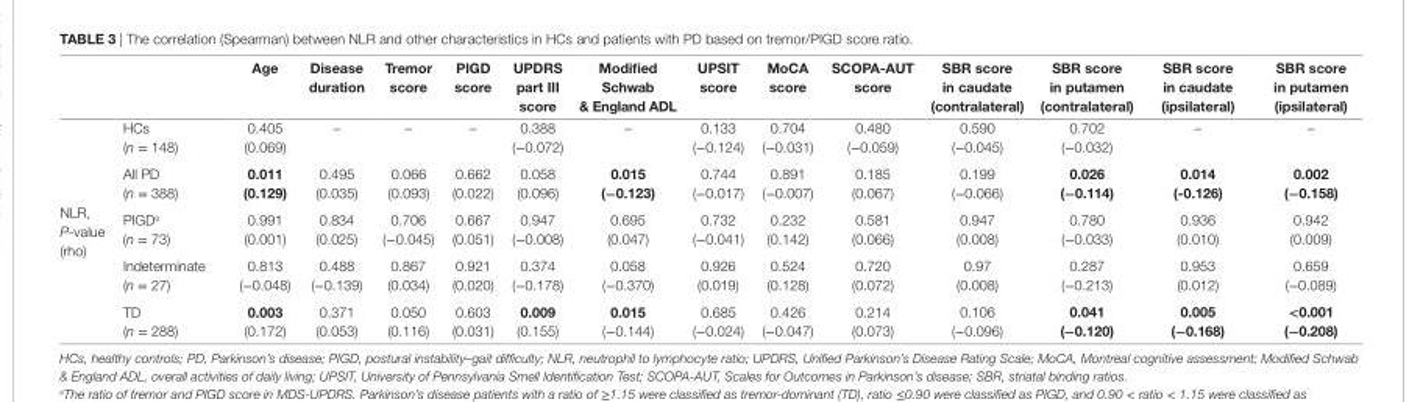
<table><thead><tr><td></td><td></td><td>age</td><td>Disease duration</td><td>Tremor score</td><td>PigD score</td><td>UPDrs part iii score</td><td>Modified schwab &amp; england aDl</td><td>UPsiT score</td><td>Moca score</td><td>scOPa-aUT score</td><td>sBr score in caudate (contralateral)</td><td>sBr score in putamen (contralateral)</td><td>sBr score in caudate (ipsilateral)</td><td>sBr score in putamen (ipsilateral)</td></tr></thead><tbody><tr><td rowspan="5">NLR, P-value (rho)</td><td>HCs (n = 148)</td><td>0.405 (0.069)</td><td>–</td><td>–</td><td>–</td><td>0.388 (−0.072)</td><td>–</td><td>0.133 (−0.124)</td><td>0.704 (−0.031)</td><td>0.480 (−0.059)</td><td>0.590 (−0.045)</td><td>0.702 (−0.032)</td><td>–</td><td>–</td></tr><tr><td>All PD (n = 388)</td><td>0.011 (0.129)</td><td>0.495 (0.035)</td><td>0.066 (0.093)</td><td>0.662 (0.022)</td><td>0.058 (0.096)</td><td>0.015 (−0.123)</td><td>0.744 (−0.017)</td><td>0.891 (−0.007)</td><td>0.185 (0.067)</td><td>0.199 (−0.066)</td><td>0.026 (−0.114)</td><td>0.014 (-0.126)</td><td>0.002 (−0.158)</td></tr><tr><td>PIGD<sup>a</sup> (n = 73)</td><td>0.991 (0.001)</td><td>0.834 (0.025)</td><td>0.706 (−0.045)</td><td>0.667 (0.051)</td><td>0.947 (−0.008)</td><td>0.695 (0.047)</td><td>0.732 (−0.041)</td><td>0.232 (0.142)</td><td>0.581 (0.066)</td><td>0.947 (0.008)</td><td>0.780 (−0.033)</td><td>0.936 (0.010)</td><td>0.942 (0.009)</td></tr><tr><td>Indeterminate (n = 27)</td><td>0.813 (−0.048)</td><td>0.488 (−0.139)</td><td>0.867 (0.034)</td><td>0.921 (0.020)</td><td>0.374 (−0.178)</td><td>0.058 (−0.370)</td><td>0.926 (0.019)</td><td>0.524 (0.128)</td><td>0.720 (0.072)</td><td>0.97 (0.008)</td><td>0.287 (−0.213)</td><td>0.953 (0.012)</td><td>0.659 (−0.089)</td></tr><tr><td>TD (n = 288)</td><td>0.003 (0.172)</td><td>0.371 (0.053)</td><td>0.050 (0.116)</td><td>0.603 (0.031)</td><td>0.009 (0.155)</td><td>0.015 (−0.144)</td><td>0.685 (−0.024)</td><td>0.426 (−0.047)</td><td>0.214 (0.073)</td><td>0.106 (−0.096)</td><td>0.041 (−0.120)</td><td>0.005 (−0.168)</td><td>&lt;0.001 (−0.208)</td></tr></tbody></table>